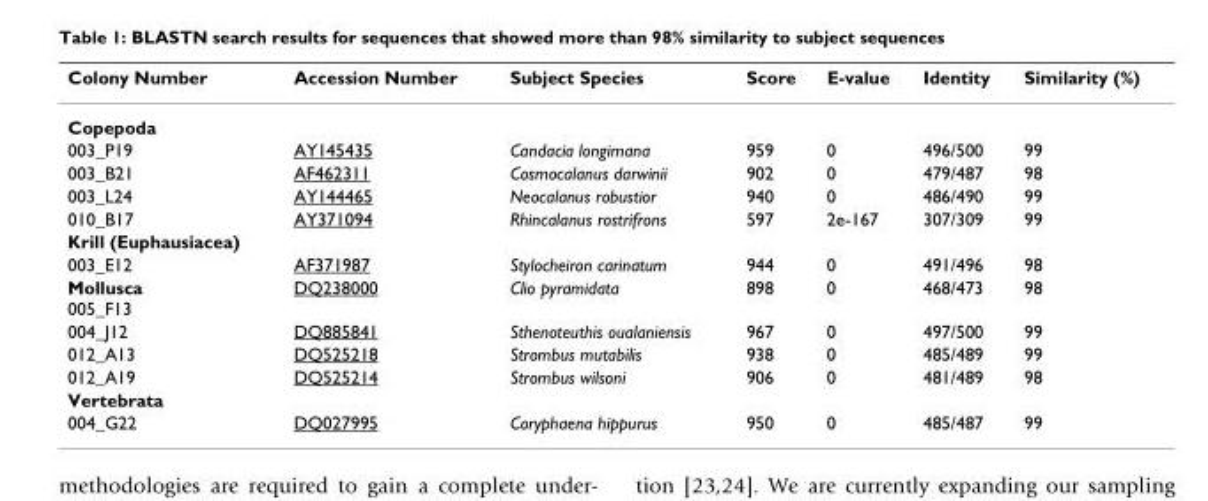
<table><thead><tr><td>Colony Number</td><td>Accession Number</td><td>Subject Species</td><td>Score</td><td>E-value</td><td>Identity</td><td>Similarity (%)</td></tr></thead><tbody><tr><td colspan="7">Copepoda</td></tr><tr><td>003_P19</td><td>AY145435</td><td>Candacia longimana</td><td>959</td><td>0</td><td>496/500</td><td>99</td></tr><tr><td>003_B21</td><td>AF462311</td><td>Cosmocalanus darwinii</td><td>902</td><td>0</td><td>479/487</td><td>98</td></tr><tr><td>003_L24</td><td>AY144465</td><td>Neocalanus robustior</td><td>940</td><td>0</td><td>486/490</td><td>99</td></tr><tr><td>010_B17</td><td>AY371094</td><td>Rhincalanus rostrifrons</td><td>597</td><td>2e-167</td><td>307/309</td><td>99</td></tr><tr><td colspan="7">Krill (Euphausiacea)</td></tr><tr><td>003_E12</td><td>AF371987</td><td>Stylocheiron carinatum</td><td>944</td><td>0</td><td>491/496</td><td>98</td></tr><tr><td>Mollusca 005_F13</td><td>DQ238000</td><td>Clio pyramidata</td><td>898</td><td>0</td><td>468/473</td><td>98</td></tr><tr><td>004_J12</td><td>DQ885841</td><td>Sthenoteuthis oualaniensis</td><td>967</td><td>0</td><td>497/500</td><td>99</td></tr><tr><td>012_A13</td><td>DQ525218</td><td>Strombus mutabilis</td><td>938</td><td>0</td><td>485/489</td><td>99</td></tr><tr><td>012_A19</td><td>DQ525214</td><td>Strombus wilsoni</td><td>906</td><td>0</td><td>481/489</td><td>98</td></tr><tr><td colspan="7">Vertebrata</td></tr><tr><td>004_G22</td><td>DQ027995</td><td>Coryphaena hippurus</td><td>950</td><td>0</td><td>485/487</td><td>99</td></tr></tbody></table>